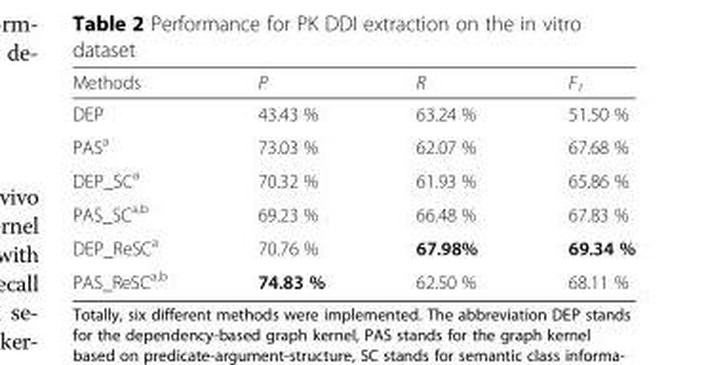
<table><thead><tr><td>Methods</td><td>P</td><td>R</td><td>F<sub>1</sub></td></tr></thead><tbody><tr><td>DEP</td><td>43.43 %</td><td>63.24 %</td><td>51.50 %</td></tr><tr><td>PAS<sup>a</sup></td><td>73.03 %</td><td>62.07 %</td><td>67.68 %</td></tr><tr><td>DEP_SC<sup>a</sup></td><td>70.32 %</td><td>61.93 %</td><td>65.86 %</td></tr><tr><td>PAS_SC<sup>a,b</sup></td><td>69.23 %</td><td>66.48 %</td><td>67.83 %</td></tr><tr><td>DEP_ReSC<sup>a</sup></td><td>70.76 %</td><td>67.98%</td><td>69.34 %</td></tr><tr><td>PAS_ReSC<sup>a,b</sup></td><td>74.83 %</td><td>62.50 %</td><td>68.11 %</td></tr></tbody></table>